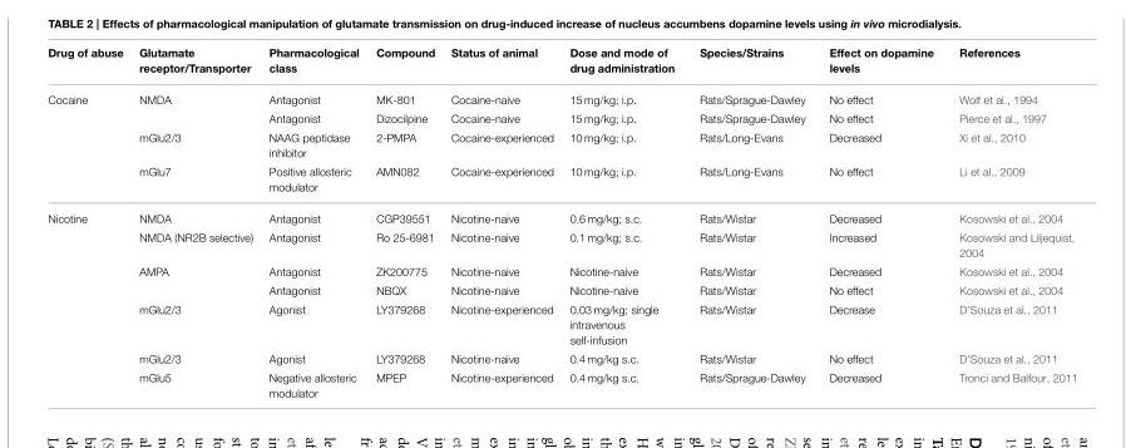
<table><thead><tr><td>Drug of abuse</td><td>Glutamate receptor/Transporter</td><td>Pharmacological class</td><td>Compound</td><td>Status of animal</td><td>Dose and mode of drug administration</td><td>Species/Strains</td><td>Effect on dopamine levels</td><td>References</td></tr></thead><tbody><tr><td rowspan="4">Cocaine</td><td>NMDA</td><td>Antagonist</td><td>MK-801</td><td>Cocaine-naive</td><td>15 mg/kg; i.p.</td><td>Rats/Sprague-Dawley</td><td>No effect</td><td>Wolf et al., 1994</td></tr><tr><td></td><td>Antagonist</td><td>Dizocilpine</td><td>Cocaine-naive</td><td>15 mg/kg; i.p.</td><td>Rats/Sprague-Dawley</td><td>No effect</td><td>Pierce et al., 1997</td></tr><tr><td>mGlu2/3</td><td>NAAG peptidase inhibitor</td><td>2-PMPA</td><td>Cocaine-experienced</td><td>10 mg/kg; i.p.</td><td>Rats/Long-Evans</td><td>Decreased</td><td>Xi et al., 2010</td></tr><tr><td>mGlu7</td><td>Positive allosteric modulator</td><td>AMN082</td><td>Cocaine-experienced</td><td>10 mg/kg; i.p.</td><td>Rats/Long-Evans</td><td>No effect</td><td>Li et al., 2009</td></tr><tr><td rowspan="7">Nicotine</td><td>NMDA</td><td>Antagonist</td><td>CGP39551</td><td>Nicotine-naive</td><td>0.6 mg/kg; s.c.</td><td>Rats/Wistar</td><td>Decreased</td><td>Kosowski et al., 2004</td></tr><tr><td>NMDA (NR2B selective)</td><td>Antagonist</td><td>Ro 25-6981</td><td>Nicotine-naive</td><td>0.1 mg/kg; s.c.</td><td>Rats/Wistar</td><td>Increased</td><td>Kosowski and Liljequist, 2004</td></tr><tr><td>AMPA</td><td>Antagonist</td><td>ZK200775</td><td>Nicotine-naive</td><td>Nicotine-naive</td><td>Rats/Wistar</td><td>Decreased</td><td>Kosowski et al., 2004</td></tr><tr><td></td><td>Antagonist</td><td>NBQX</td><td>Nicotine-naive</td><td>Nicotine-naive</td><td>Rats/Wistar</td><td>No effect</td><td>Kosowski et al., 2004</td></tr><tr><td>mGlu2/3</td><td>Agonist</td><td>LY379268</td><td>Nicotine-experienced</td><td>0.03 mg/kg; single intravenous self-infusion</td><td>Rats/Wistar</td><td>Decrease</td><td>D’Souza et al., 2011</td></tr><tr><td>mGlu2/3</td><td>Agonist</td><td>LY379268</td><td>Nicotine-naive</td><td>0.4 mg/kg s.c.</td><td>Rats/Wistar</td><td>No effect</td><td>D’Souza et al., 2011</td></tr><tr><td>mGlu5</td><td>Negative allosteric modulator</td><td>MPEP</td><td>Nicotine-experienced</td><td>0.4 mg/kg s.c.</td><td>Rats/Sprague-Dawley</td><td>Decreased</td><td>Tronci and Balfour, 2011</td></tr></tbody></table>